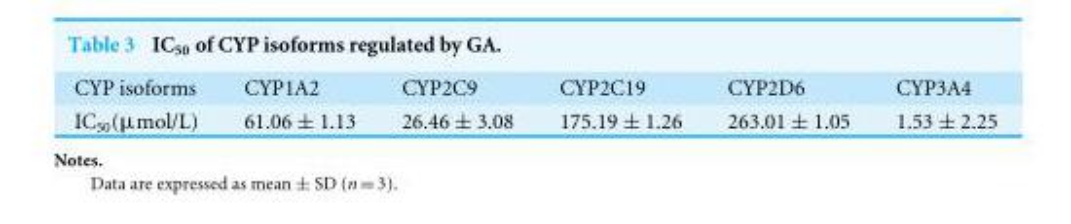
<table><tbody><tr><td>CYP isoforms</td><td>CYP1A2</td><td>CYP2C9</td><td>CYP2C19</td><td>CYP2D6</td><td>CYP3A4</td></tr><tr><td>IC<sub>50</sub>(µmol/L)</td><td>61.06 ± 1.13</td><td>26.46 ± 3.08</td><td>175.19 ± 1.26</td><td>263.01 ± 1.05</td><td>1.53 ± 2.25</td></tr></tbody></table>